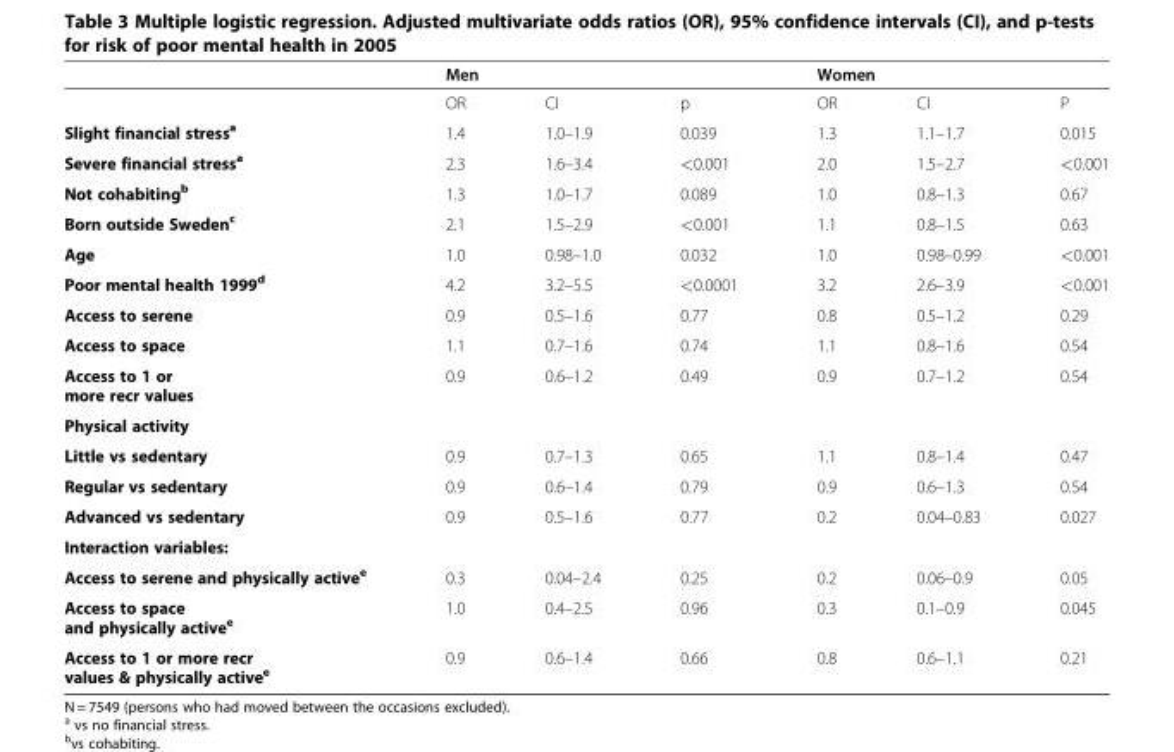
<table><thead><tr><td rowspan="2"></td><td colspan="3">Men</td><td colspan="3">Women</td></tr><tr><td>OR</td><td>CI</td><td>p</td><td>OR</td><td>CI</td><td>P</td></tr></thead><tbody><tr><td>Slight financial stress<sup>a</sup></td><td>1.4</td><td>1.0–1.9</td><td>0.039</td><td>1.3</td><td>1.1–1.7</td><td>0.015</td></tr><tr><td>Severe financial stress<sup>a</sup></td><td>2.3</td><td>1.6–3.4</td><td>&lt;0.001</td><td>2.0</td><td>1.5–2.7</td><td>&lt;0.001</td></tr><tr><td>Not cohabiting<sup>b</sup></td><td>1.3</td><td>1.0–1.7</td><td>0.089</td><td>1.0</td><td>0.8–1.3</td><td>0.67</td></tr><tr><td>Born outside Sweden<sup>c</sup></td><td>2.1</td><td>1.5–2.9</td><td>&lt;0.001</td><td>1.1</td><td>0.8–1.5</td><td>0.63</td></tr><tr><td>Age</td><td>1.0</td><td>0.98–1.0</td><td>0.032</td><td>1.0</td><td>0.98–0.99</td><td>&lt;0.001</td></tr><tr><td>Poor mental health 1999<sup>d</sup></td><td>4.2</td><td>3.2–5.5</td><td>&lt;0.0001</td><td>3.2</td><td>2.6–3.9</td><td>&lt;0.001</td></tr><tr><td>Access to serene</td><td>0.9</td><td>0.5–1.6</td><td>0.77</td><td>0.8</td><td>0.5–1.2</td><td>0.29</td></tr><tr><td>Access to space</td><td>1.1</td><td>0.7–1.6</td><td>0.74</td><td>1.1</td><td>0.8–1.6</td><td>0.54</td></tr><tr><td>Access to 1 or more recr values</td><td>0.9</td><td>0.6–1.2</td><td>0.49</td><td>0.9</td><td>0.7–1.2</td><td>0.54</td></tr><tr><td colspan="7">Physical activity</td></tr><tr><td>Little vs sedentary</td><td>0.9</td><td>0.7–1.3</td><td>0.65</td><td>1.1</td><td>0.8–1.4</td><td>0.47</td></tr><tr><td>Regular vs sedentary</td><td>0.9</td><td>0.6–1.4</td><td>0.79</td><td>0.9</td><td>0.6–1.3</td><td>0.54</td></tr><tr><td>Advanced vs sedentary</td><td>0.9</td><td>0.5–1.6</td><td>0.77</td><td>0.2</td><td>0.04–0.83</td><td>0.027</td></tr><tr><td colspan="7">Interaction variables:</td></tr><tr><td>Access to serene and physically active<sup>e</sup></td><td>0.3</td><td>0.04–2.4</td><td>0.25</td><td>0.2</td><td>0.06–0.9</td><td>0.05</td></tr><tr><td>Access to space and physically active<sup>e</sup></td><td>1.0</td><td>0.4–2.5</td><td>0.96</td><td>0.3</td><td>0.1–0.9</td><td>0.045</td></tr><tr><td>Access to 1 or more recr values &amp; physically active<sup>e</sup></td><td>0.9</td><td>0.6–1.4</td><td>0.66</td><td>0.8</td><td>0.6–1.1</td><td>0.21</td></tr></tbody></table>